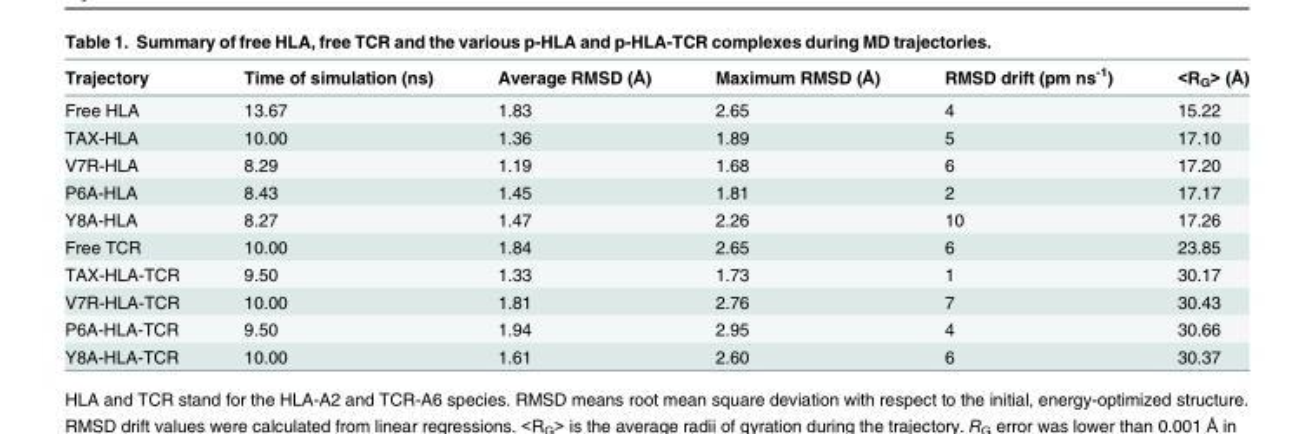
<table><thead><tr><td>Trajectory</td><td>Time of simulation (ns)</td><td>Average RMSD (Å)</td><td>Maximum RMSD (Å)</td><td>RMSD drift (pm ns<sup>-1</sup>)</td><td>&lt;R<sub>G</sub>&gt; (Å)</td></tr></thead><tbody><tr><td>Free HLA</td><td>13.67</td><td>1.83</td><td>2.65</td><td>4</td><td>15.22</td></tr><tr><td>TAX-HLA</td><td>10.00</td><td>1.36</td><td>1.89</td><td>5</td><td>17.10</td></tr><tr><td>V7R-HLA</td><td>8.29</td><td>1.19</td><td>1.68</td><td>6</td><td>17.20</td></tr><tr><td>P6A-HLA</td><td>8.43</td><td>1.45</td><td>1.81</td><td>2</td><td>17.17</td></tr><tr><td>Y8A-HLA</td><td>8.27</td><td>1.47</td><td>2.26</td><td>10</td><td>17.26</td></tr><tr><td>Free TCR</td><td>10.00</td><td>1.84</td><td>2.65</td><td>6</td><td>23.85</td></tr><tr><td>TAX-HLA-TCR</td><td>9.50</td><td>1.33</td><td>1.73</td><td>1</td><td>30.17</td></tr><tr><td>V7R-HLA-TCR</td><td>10.00</td><td>1.81</td><td>2.76</td><td>7</td><td>30.43</td></tr><tr><td>P6A-HLA-TCR</td><td>9.50</td><td>1.94</td><td>2.95</td><td>4</td><td>30.66</td></tr><tr><td>Y8A-HLA-TCR</td><td>10.00</td><td>1.61</td><td>2.60</td><td>6</td><td>30.37</td></tr></tbody></table>